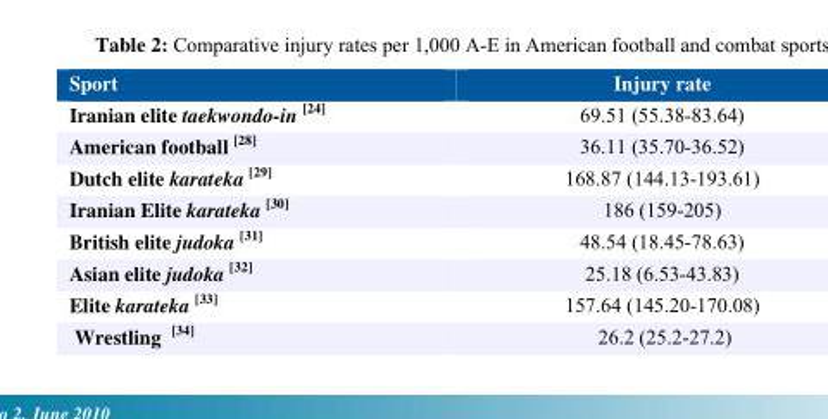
<table><thead><tr><td>Sport</td><td>Injury rate</td></tr></thead><tbody><tr><td>Iranian elite taekwondo-in <sup>[24]</sup></td><td>69.51 (55.38-83.64)</td></tr><tr><td>American football <sup>[28]</sup></td><td>36.11 (35.70-36.52)</td></tr><tr><td>Dutch elite karateka <sup>[29]</sup></td><td>168.87 (144.13-193.61)</td></tr><tr><td>Iranian Elite karateka <sup>[30]</sup></td><td>186 (159-205)</td></tr><tr><td>British elite judoka <sup>[31]</sup></td><td>48.54 (18.45-78.63)</td></tr><tr><td>Asian elite judoka <sup>[32]</sup></td><td>25.18 (6.53-43.83)</td></tr><tr><td>Elite karateka <sup>[33]</sup></td><td>157.64 (145.20-170.08)</td></tr><tr><td>Wrestling <sup>[34]</sup></td><td>26.2 (25.2-27.2)</td></tr></tbody></table>